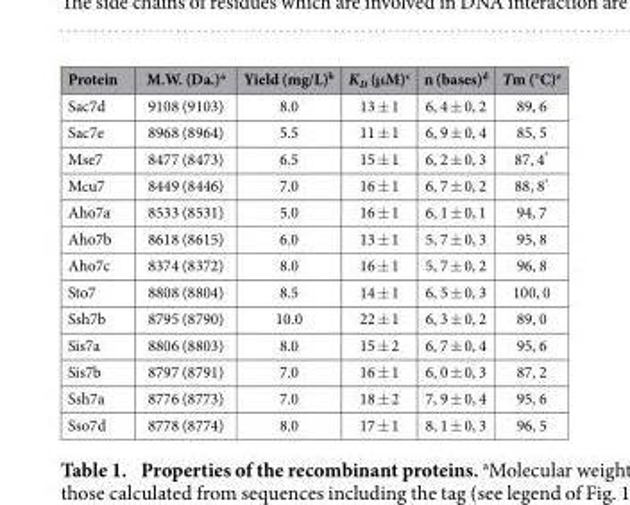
<table><thead><tr><td>Protein</td><td>M.W. (Da.)<sup>a</sup></td><td>Yield (mg/L)<sup>b</sup></td><td>K<sub>D</sub> (μM)<sup>c</sup></td><td>n (bases)<sup>d</sup></td><td>Tm (°C)<sup>e</sup></td></tr></thead><tbody><tr><td>Sac7d</td><td>9108 (9103)</td><td>8.0</td><td>13 ± 1</td><td>6, 4 ± 0, 2</td><td>89, 6</td></tr><tr><td>Sac7e</td><td>8968 (8964)</td><td>5.5</td><td>11 ± 1</td><td>6, 9 ± 0, 4</td><td>85, 5</td></tr><tr><td>Mse7</td><td>8477 (8473)</td><td>6.5</td><td>15 ± 1</td><td>6, 2 ± 0, 3</td><td>87, 4*</td></tr><tr><td>Mcu7</td><td>8449 (8446)</td><td>7.0</td><td>16 ± 1</td><td>6, 7 ± 0, 2</td><td>88, 8*</td></tr><tr><td>Aho7a</td><td>8533 (8531)</td><td>5.0</td><td>16 ± 1</td><td>6, 1 ± 0, 1</td><td>94, 7</td></tr><tr><td>Aho7b</td><td>8618 (8615)</td><td>6.0</td><td>13 ± 1</td><td>5, 7 ± 0, 3</td><td>95, 8</td></tr><tr><td>Aho7c</td><td>8374 (8372)</td><td>8.0</td><td>16 ± 1</td><td>5, 7 ± 0, 2</td><td>96, 8</td></tr><tr><td>Sto7</td><td>8808 (8804)</td><td>8.5</td><td>14 ± 1</td><td>6, 5 ± 0, 3</td><td>100, 0</td></tr><tr><td>Ssh7b</td><td>8795 (8790)</td><td>10.0</td><td>22 ± 1</td><td>6, 3 ± 0, 2</td><td>89, 0</td></tr><tr><td>Sis7a</td><td>8806 (8803)</td><td>8.0</td><td>15 ± 2</td><td>6, 7 ± 0, 4</td><td>95, 6</td></tr><tr><td>Sis7b</td><td>8797 (8791)</td><td>7.0</td><td>16 ± 1</td><td>6, 0 ± 0, 3</td><td>87, 2</td></tr><tr><td>Ssh7a</td><td>8776 (8773)</td><td>7.0</td><td>18 ± 2</td><td>7, 9 ± 0, 4</td><td>95, 6</td></tr><tr><td>Sso7d</td><td>8778 (8774)</td><td>8.0</td><td>17 ± 1</td><td>8, 1 ± 0, 3</td><td>96, 5</td></tr></tbody></table>